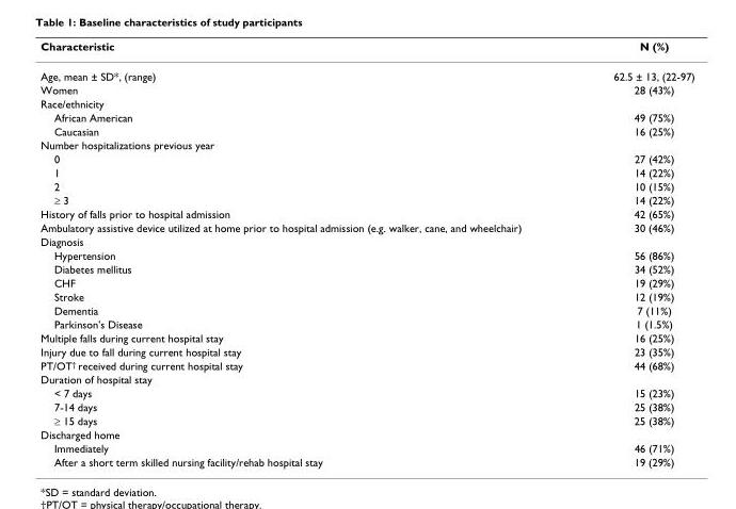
<table><thead><tr><td>Characteristic</td><td>N (%)</td></tr></thead><tbody><tr><td>Age, mean ± SD*, (range)</td><td>62.5 ± 13, (22-97)</td></tr><tr><td>Women</td><td>28 (43%)</td></tr><tr><td colspan="2">Race/ethnicity</td></tr><tr><td>African American</td><td>49 (75%)</td></tr><tr><td>Caucasian</td><td>16 (25%)</td></tr><tr><td colspan="2">Number hospitalizations previous year</td></tr><tr><td>0</td><td>27 (42%)</td></tr><tr><td>1</td><td>14 (22%)</td></tr><tr><td>2</td><td>10 (15%)</td></tr><tr><td>≥ 3</td><td>14 (22%)</td></tr><tr><td>History of falls prior to hospital admission</td><td>42 (65%)</td></tr><tr><td>Ambulatory assistive device utilized at home prior to hospital admission (e.g. walker, cane, and wheelchair)</td><td>30 (46%)</td></tr><tr><td colspan="2">Diagnosis</td></tr><tr><td>Hypertension</td><td>56 (86%)</td></tr><tr><td>Diabetes mellitus</td><td>34 (52%)</td></tr><tr><td>CHF</td><td>19 (29%)</td></tr><tr><td>Stroke</td><td>12 (19%)</td></tr><tr><td>Dementia</td><td>7 (11%)</td></tr><tr><td>Parkinson&#x27;s Disease</td><td>1 (1.5%)</td></tr><tr><td>Multiple falls during current hospital stay</td><td>16 (25%)</td></tr><tr><td>Injury due to fall during current hospital stay</td><td>23 (35%)</td></tr><tr><td>PT/OT<sup>†</sup> received during current hospital stay</td><td>44 (68%)</td></tr><tr><td colspan="2">Duration of hospital stay</td></tr><tr><td>&lt; 7 days</td><td>15 (23%)</td></tr><tr><td>7-14 days</td><td>25 (38%)</td></tr><tr><td>≥ 15 days</td><td>25 (38%)</td></tr><tr><td colspan="2">Discharged home</td></tr><tr><td>Immediately</td><td>46 (71%)</td></tr><tr><td>After a short term skilled nursing facility/rehab hospital stay</td><td>19 (29%)</td></tr></tbody></table>